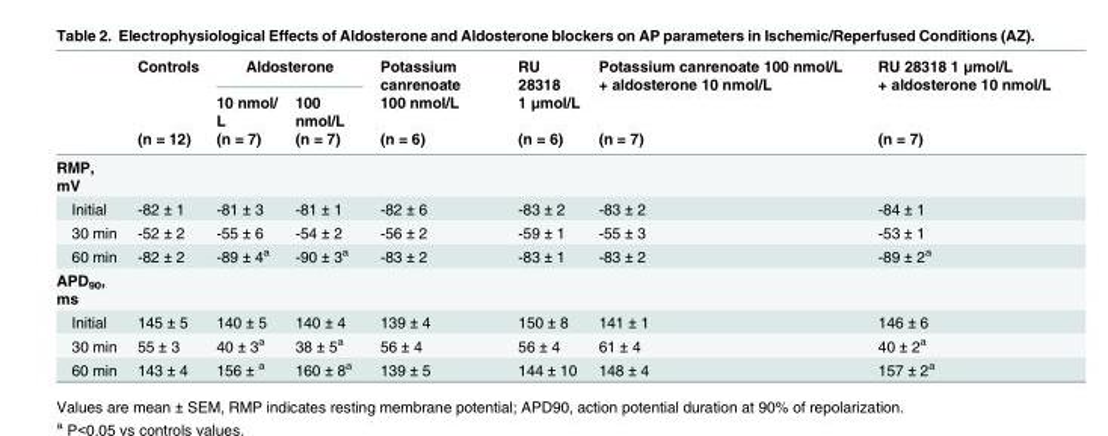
<table><thead><tr><td rowspan="3"></td><td rowspan="3">Controls (n = 12)</td><td colspan="2">Aldosterone</td><td rowspan="3">Potassium canrenoate 100 nmol/L (n = 6)</td><td rowspan="3">RU 28318 1 μmol/L (n = 6)</td><td rowspan="3">Potassium canrenoate 100 nmol/L + aldosterone 10 nmol/L (n = 7)</td><td rowspan="3">RU 28318 1 μmol/L + aldosterone 10 nmol/L (n = 7)</td></tr><tr><td rowspan="2">10 nmol/ L (n = 7)</td><td rowspan="2">100 nmol/L (n = 7)</td></tr><tr></tr></thead><tbody><tr><td colspan="8">RMP, mV</td></tr><tr><td>Initial</td><td>-82 ± 1</td><td>-81 ± 3</td><td>-81 ± 1</td><td>-82 ± 6</td><td>-83 ± 2</td><td>-83 ± 2</td><td>-84 ± 1</td></tr><tr><td>30 min</td><td>-52 ± 2</td><td>-55 ± 6</td><td>-54 ± 2</td><td>-56 ± 2</td><td>-59 ± 1</td><td>-55 ± 3</td><td>-53 ± 1</td></tr><tr><td>60 min</td><td>-82 ± 2</td><td>-89 ± 4<sup>a</sup></td><td>-90 ± 3<sup>a</sup></td><td>-83 ± 2</td><td>-83 ± 1</td><td>-83 ± 2</td><td>-89 ± 2<sup>a</sup></td></tr><tr><td colspan="8">APD<sub>90</sub>, ms</td></tr><tr><td>Initial</td><td>145 ± 5</td><td>140 ± 5</td><td>140 ± 4</td><td>139 ± 4</td><td>150 ± 8</td><td>141 ± 1</td><td>146 ± 6</td></tr><tr><td>30 min</td><td>55 ± 3</td><td>40 ± 3<sup>a</sup></td><td>38 ± 5<sup>a</sup></td><td>56 ± 4</td><td>56 ± 4</td><td>61 ± 4</td><td>40 ± 2<sup>a</sup></td></tr><tr><td>60 min</td><td>143 ± 4</td><td>156 ± <sup>a</sup></td><td>160 ± 8<sup>a</sup></td><td>139 ± 5</td><td>144 ± 10</td><td>148 ± 4</td><td>157 ± 2<sup>a</sup></td></tr></tbody></table>